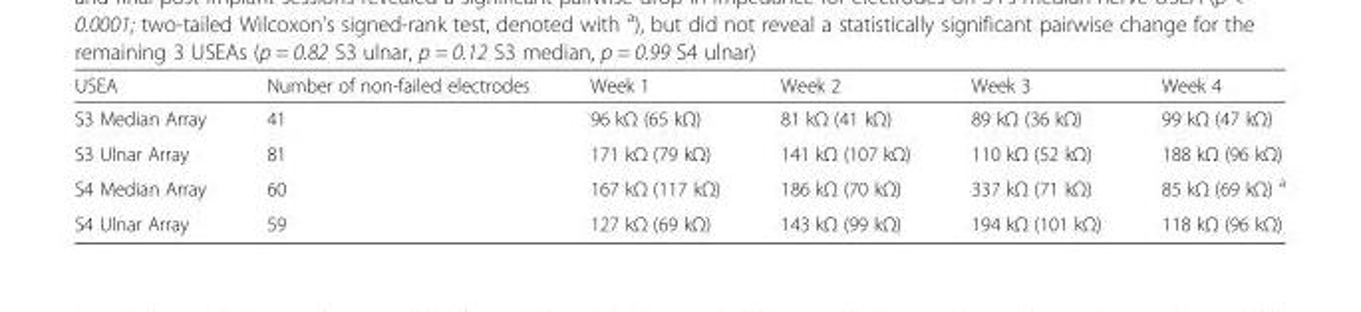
<table><thead><tr><td>USEA</td><td>Number of non-failed electrodes</td><td>Week 1</td><td>Week 2</td><td>Week 3</td><td>Week 4</td></tr></thead><tbody><tr><td>S3 Median Array</td><td>41</td><td>96 kΩ (65 kΩ)</td><td>81 kΩ (41 kΩ)</td><td>89 kΩ (36 kΩ)</td><td>99 kΩ (47 kΩ)</td></tr><tr><td>S3 Ulnar Array</td><td>81</td><td>171 kΩ (79 kΩ)</td><td>141 kΩ (107 kΩ)</td><td>110 kΩ (52 kΩ)</td><td>188 kΩ (96 kΩ)</td></tr><tr><td>S4 Median Array</td><td>60</td><td>167 kΩ (117 kΩ)</td><td>186 kΩ (70 kΩ)</td><td>337 kΩ (71 kΩ)</td><td>85 kΩ (69 kΩ) <sup>a</sup></td></tr><tr><td>S4 Ulnar Array</td><td>59</td><td>127 kΩ (69 kΩ)</td><td>143 kΩ (99 kΩ)</td><td>194 kΩ (101 kΩ)</td><td>118 kΩ (96 kΩ)</td></tr></tbody></table>